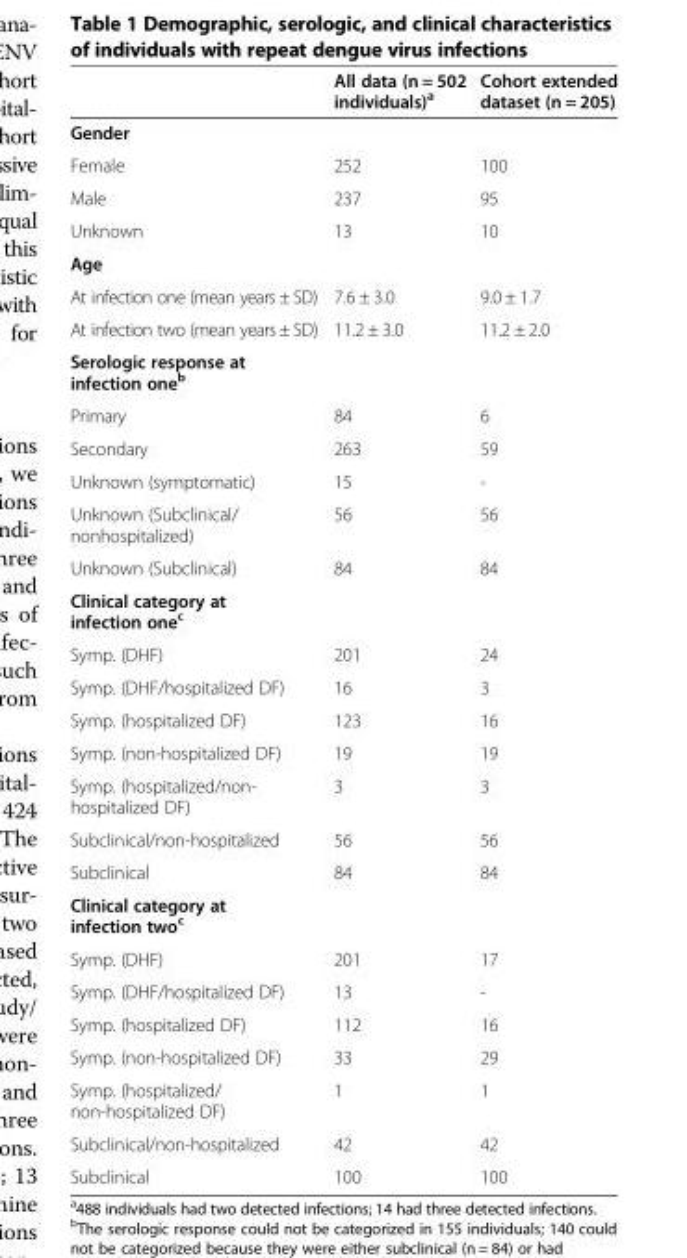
<table><thead><tr><td></td><td>All data (n = 502 individuals)<sup>a</sup></td><td>Cohort extended dataset (n = 205)</td></tr></thead><tbody><tr><td colspan="3">Gender</td></tr><tr><td>Female</td><td>252</td><td>100</td></tr><tr><td>Male</td><td>237</td><td>95</td></tr><tr><td>Unknown</td><td>13</td><td>10</td></tr><tr><td colspan="3">Age</td></tr><tr><td>At infection one (mean years ± SD)</td><td>7.6 ± 3.0</td><td>9.0 ± 1.7</td></tr><tr><td>At infection two (mean years ± SD)</td><td>11.2 ± 3.0</td><td>11.2 ± 2.0</td></tr><tr><td colspan="3">Serologic response at infection one<sup>b</sup></td></tr><tr><td>Primary</td><td>84</td><td>6</td></tr><tr><td>Secondary</td><td>263</td><td>59</td></tr><tr><td>Unknown (symptomatic)</td><td>15</td><td>-</td></tr><tr><td>Unknown (Subclinical/ nonhospitalized)</td><td>56</td><td>56</td></tr><tr><td>Unknown (Subclinical)</td><td>84</td><td>84</td></tr><tr><td colspan="3">Clinical category at infection one<sup>c</sup></td></tr><tr><td>Symp. (DHF)</td><td>201</td><td>24</td></tr><tr><td>Symp. (DHF/hospitalized DF)</td><td>16</td><td>3</td></tr><tr><td>Symp. (hospitalized DF)</td><td>123</td><td>16</td></tr><tr><td>Symp. (non-hospitalized DF)</td><td>19</td><td>19</td></tr><tr><td>Symp. (hospitalized/non- hospitalized DF)</td><td>3</td><td>3</td></tr><tr><td>Subclinical/non-hospitalized</td><td>56</td><td>56</td></tr><tr><td>Subclinical</td><td>84</td><td>84</td></tr><tr><td colspan="3">Clinical category at infection two<sup>c</sup></td></tr><tr><td>Symp. (DHF)</td><td>201</td><td>17</td></tr><tr><td>Symp. (DHF/hospitalized DF)</td><td>13</td><td>-</td></tr><tr><td>Symp. (hospitalized DF)</td><td>112</td><td>16</td></tr><tr><td>Symp. (non-hospitalized DF)</td><td>33</td><td>29</td></tr><tr><td>Symp. (hospitalized/ non-hospitalized DF)</td><td>1</td><td>1</td></tr><tr><td>Subclinical/non-hospitalized</td><td>42</td><td>42</td></tr><tr><td>Subclinical</td><td>100</td><td>100</td></tr></tbody></table>